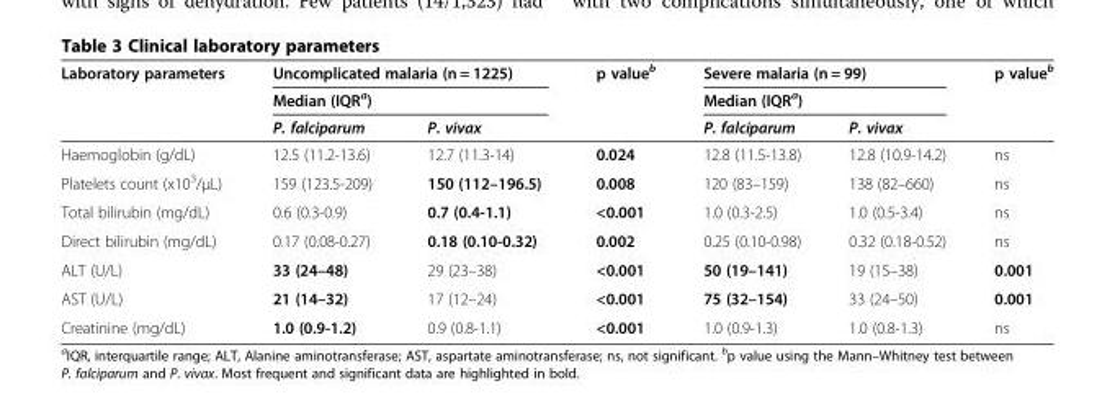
<table><thead><tr><td rowspan="3">Laboratory parameters</td><td rowspan="2" colspan="2">Uncomplicated malaria (n = 1225) Median (IQR<sup>a</sup>)</td><td rowspan="3">p value<sup>b</sup></td><td rowspan="2" colspan="2">Severe malaria (n = 99) Median (IQR<sup>a</sup>)</td><td rowspan="3">p value<sup>b</sup></td></tr><tr></tr><tr><td>P. falciparum</td><td>P. vivax</td><td>P. falciparum</td><td>P. vivax</td></tr></thead><tbody><tr><td>Haemoglobin (g/dL)</td><td>12.5 (11.2-13.6)</td><td>12.7 (11.3-14)</td><td>0.024</td><td>12.8 (11.5-13.8)</td><td>12.8 (10.9-14.2)</td><td>ns</td></tr><tr><td>Platelets count (x10<sup>3</sup>/μL)</td><td>159 (123.5-209)</td><td>150 (112–196.5)</td><td>0.008</td><td>120 (83–159)</td><td>138 (82–660)</td><td>ns</td></tr><tr><td>Total bilirubin (mg/dL)</td><td>0.6 (0.3-0.9)</td><td>0.7 (0.4-1.1)</td><td>&lt;0.001</td><td>1.0 (0.3-2.5)</td><td>1.0 (0.5-3.4)</td><td>ns</td></tr><tr><td>Direct bilirubin (mg/dL)</td><td>0.17 (0.08-0.27)</td><td>0.18 (0.10-0.32)</td><td>0.002</td><td>0.25 (0.10-0.98)</td><td>0.32 (0.18-0.52)</td><td>ns</td></tr><tr><td>ALT (U/L)</td><td>33 (24–48)</td><td>29 (23–38)</td><td>&lt;0.001</td><td>50 (19–141)</td><td>19 (15–38)</td><td>0.001</td></tr><tr><td>AST (U/L)</td><td>21 (14–32)</td><td>17 (12–24)</td><td>&lt;0.001</td><td>75 (32–154)</td><td>33 (24–50)</td><td>0.001</td></tr><tr><td>Creatinine (mg/dL)</td><td>1.0 (0.9-1.2)</td><td>0.9 (0.8-1.1)</td><td>&lt;0.001</td><td>1.0 (0.9-1.3)</td><td>1.0 (0.8-1.3)</td><td>ns</td></tr></tbody></table>